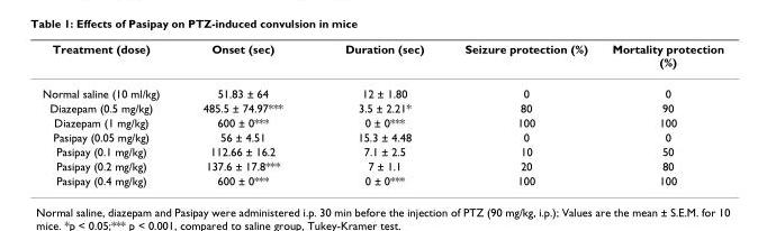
<table><thead><tr><td>Treatment (dose)</td><td>Onset (sec)</td><td>Duration (sec)</td><td>Seizure protection (%)</td><td>Mortality protection (%)</td></tr></thead><tbody><tr><td>Normal saline (10 ml/kg)</td><td>51.83 ± 64</td><td>12 ± 1.80</td><td>0</td><td>0</td></tr><tr><td>Diazepam (0.5 mg/kg)</td><td>485.5 ± 74.97***</td><td>3.5 ± 2.21*</td><td>80</td><td>90</td></tr><tr><td>Diazepam (1 mg/kg)</td><td>600 ± 0***</td><td>0 ± 0***</td><td>100</td><td>100</td></tr><tr><td>Pasipay (0.05 mg/kg)</td><td>56 ± 4.51</td><td>15.3 ± 4.48</td><td>0</td><td>0</td></tr><tr><td>Pasipay (0.1 mg/kg)</td><td>112.66 ± 16.2</td><td>7.1 ± 2.5</td><td>10</td><td>50</td></tr><tr><td>Pasipay (0.2 mg/kg)</td><td>137.6 ± 17.8***</td><td>7 ± 1.1</td><td>20</td><td>80</td></tr><tr><td>Pasipay (0.4 mg/kg)</td><td>600 ± 0***</td><td>0 ± 0***</td><td>100</td><td>100</td></tr></tbody></table>